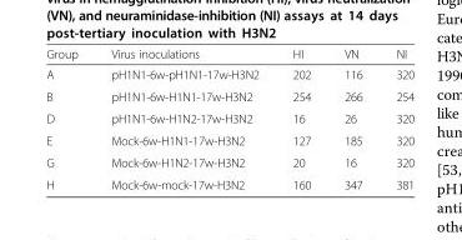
<table><thead><tr><td>Group</td><td>Virus inoculations</td><td>HI</td><td>VN</td><td>NI</td></tr></thead><tbody><tr><td>A</td><td>pH1N1-6w-pH1N1-17w-H3N2</td><td>202</td><td>116</td><td>320</td></tr><tr><td>B</td><td>pH1N1-6w-H1N1-17w-H3N2</td><td>254</td><td>266</td><td>254</td></tr><tr><td>D</td><td>pH1N1-6w-H1N2-17w-H3N2</td><td>16</td><td>26</td><td>320</td></tr><tr><td>E</td><td>Mock-6w-H1N1-17w-H3N2</td><td>127</td><td>185</td><td>320</td></tr><tr><td>G</td><td>Mock-6w-H1N2-17w-H3N2</td><td>20</td><td>16</td><td>320</td></tr><tr><td>H</td><td>Mock-6w-mock-17w-H3N2</td><td>160</td><td>347</td><td>381</td></tr></tbody></table>